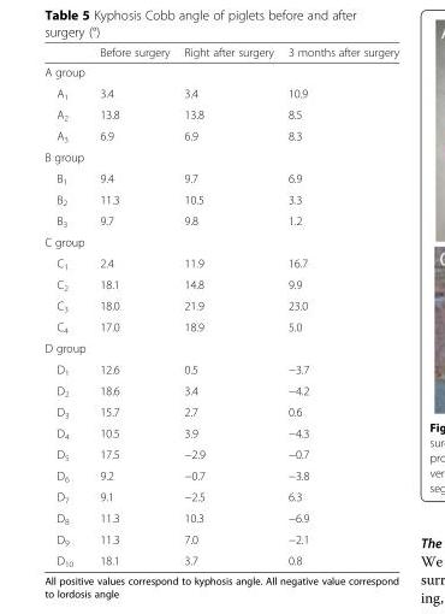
<table><thead><tr><td></td><td>Before surgery</td><td>Right after surgery</td><td>3 months after surgery</td></tr></thead><tbody><tr><td colspan="4">A group</td></tr><tr><td>A<sub>1</sub></td><td>3.4</td><td>3.4</td><td>10.9</td></tr><tr><td>A<sub>2</sub></td><td>13.8</td><td>13.8</td><td>8.5</td></tr><tr><td>A<sub>3</sub></td><td>6.9</td><td>6.9</td><td>8.3</td></tr><tr><td colspan="4">B group</td></tr><tr><td>B<sub>1</sub></td><td>9.4</td><td>9.7</td><td>6.9</td></tr><tr><td>B<sub>2</sub></td><td>11.3</td><td>10.5</td><td>3.3</td></tr><tr><td>B<sub>3</sub></td><td>9.7</td><td>9.8</td><td>1.2</td></tr><tr><td colspan="4">C group</td></tr><tr><td>C<sub>1</sub></td><td>2.4</td><td>11.9</td><td>16.7</td></tr><tr><td>C<sub>2</sub></td><td>18.1</td><td>14.8</td><td>9.9</td></tr><tr><td>C<sub>3</sub></td><td>18.0</td><td>21.9</td><td>23.0</td></tr><tr><td>C<sub>4</sub></td><td>17.0</td><td>18.9</td><td>5.0</td></tr><tr><td colspan="4">D group</td></tr><tr><td>D<sub>1</sub></td><td>12.6</td><td>0.5</td><td>−3.7</td></tr><tr><td>D<sub>2</sub></td><td>18.6</td><td>3.4</td><td>−4.2</td></tr><tr><td>D<sub>3</sub></td><td>15.7</td><td>2.7</td><td>0.6</td></tr><tr><td>D<sub>4</sub></td><td>10.5</td><td>3.9</td><td>−4.3</td></tr><tr><td>D<sub>5</sub></td><td>17.5</td><td>−2.9</td><td>−0.7</td></tr><tr><td>D<sub>6</sub></td><td>9.2</td><td>−0.7</td><td>−3.8</td></tr><tr><td>D<sub>7</sub></td><td>9.1</td><td>−2.5</td><td>6.3</td></tr><tr><td>D<sub>8</sub></td><td>11.3</td><td>10.3</td><td>−6.9</td></tr><tr><td>D<sub>9</sub></td><td>11.3</td><td>7.0</td><td>−2.1</td></tr><tr><td>D<sub>10</sub></td><td>18.1</td><td>3.7</td><td>0.8</td></tr></tbody></table>